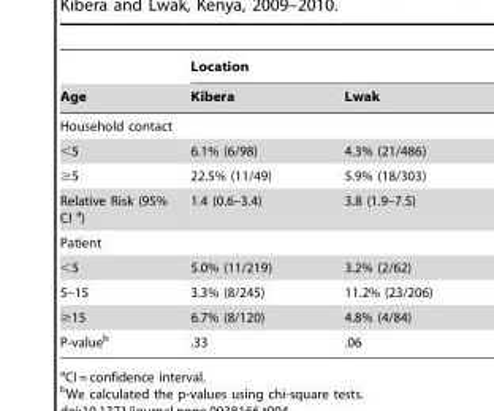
<table><thead><tr><td rowspan="2">Age</td><td colspan="2">Location</td></tr><tr><td>Kibera</td><td>Lwak</td></tr></thead><tbody><tr><td colspan="3">Household contact</td></tr><tr><td>&lt;5</td><td>6.1% (6/98)</td><td>4.3% (21/486)</td></tr><tr><td>≥5</td><td>22.5% (11/49)</td><td>5.9% (18/303)</td></tr><tr><td>Relative Risk (95% CI a)</td><td>1.4 (0.6–3.4)</td><td>3.8 (1.9–7.5)</td></tr><tr><td colspan="3">Patient</td></tr><tr><td>&lt;5</td><td>5.0% (11/219)</td><td>3.2% (2/62)</td></tr><tr><td>5–15</td><td>3.3% (8/245)</td><td>11.2% (23/206)</td></tr><tr><td>≥15</td><td>6.7% (8/120)</td><td>4.8% (4/84)</td></tr><tr><td>P-value<sup>b</sup></td><td>.33</td><td>.06</td></tr></tbody></table>